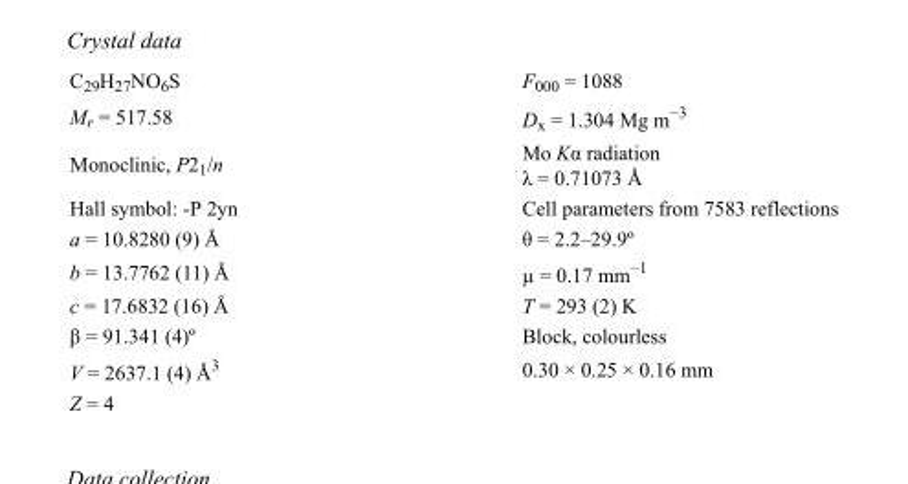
<table><tbody><tr><td>C<sub>29</sub>H<sub>27</sub>NO<sub>6</sub>S</td><td>F000 = 1088</td></tr><tr><td>M<sub>r</sub> = 517.58</td><td>D<sub>x</sub> = 1.304 Mg m<sup>−3</sup></td></tr><tr><td>Monoclinic, P2<sub>1</sub>/n</td><td>Mo Kα radiation λ = 0.71073 Å</td></tr><tr><td>Hall symbol: -P 2yn</td><td>Cell parameters from 7583 reflections</td></tr><tr><td>a = 10.8280 (9) Å</td><td>θ = 2.2–29.9º</td></tr><tr><td>b = 13.7762 (11) Å</td><td>µ = 0.17 mm<sup>−1</sup></td></tr><tr><td>c = 17.6832 (16) Å</td><td>T = 293 (2) K</td></tr><tr><td>β = 91.341 (4)º</td><td>Block, colourless</td></tr><tr><td>V = 2637.1 (4) Å<sup>3</sup></td><td>0.30 × 0.25 × 0.16 mm</td></tr><tr><td>Z = 4</td><td></td></tr></tbody></table>